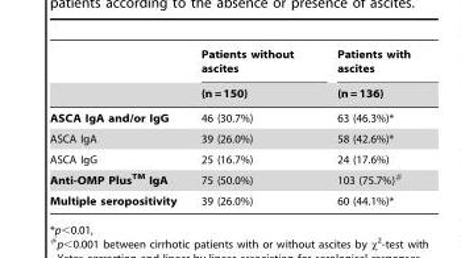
<table><thead><tr><td rowspan="2"></td><td rowspan="2">Patients without ascites (n = 150)</td><td rowspan="2">Patients with ascites (n = 136)</td></tr><tr></tr></thead><tbody><tr><td>ASCA IgA and/or IgG</td><td>46 (30.7%)</td><td>63 (46.3%)*</td></tr><tr><td>ASCA IgA</td><td>39 (26.0%)</td><td>58 (42.6%)*</td></tr><tr><td>ASCA IgG</td><td>25 (16.7%)</td><td>24 (17.6%)</td></tr><tr><td>Anti-OMP PlusTM IgA</td><td>75 (50.0%)</td><td>103 (75.7%)#</td></tr><tr><td>Multiple seropositivity</td><td>39 (26.0%)</td><td>60 (44.1%)*</td></tr></tbody></table>